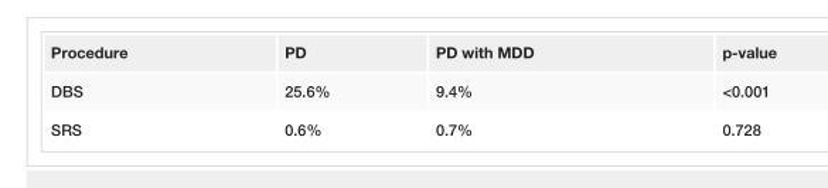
<table><tbody><tr><td>Procedure</td><td>PD</td><td>PD with MDD</td><td>p-value</td></tr><tr><td>DBS</td><td>25.6%</td><td>9.4%</td><td>&lt;0.001</td></tr><tr><td>SRS</td><td>0.6%</td><td>0.7%</td><td>0.728</td></tr></tbody></table>